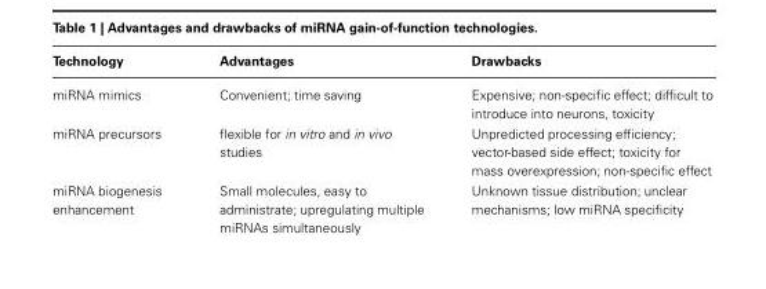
<table><thead><tr><td>Technology</td><td>Advantages</td><td>Drawbacks</td></tr></thead><tbody><tr><td>miRNA mimics</td><td>Convenient; time saving</td><td>Expensive; non-specific effect; difficult to introduce into neurons, toxicity</td></tr><tr><td>miRNA precursors</td><td>flexible for in vitro and in vivo studies</td><td>Unpredicted processing efficiency; vector-based side effect; toxicity for mass overexpression; non-specific effect</td></tr><tr><td>miRNA biogenesis enhancement</td><td>Small molecules, easy to administrate; upregulating multiple miRNAs simultaneously</td><td>Unknown tissue distribution; unclear mechanisms; low miRNA specificity</td></tr></tbody></table>